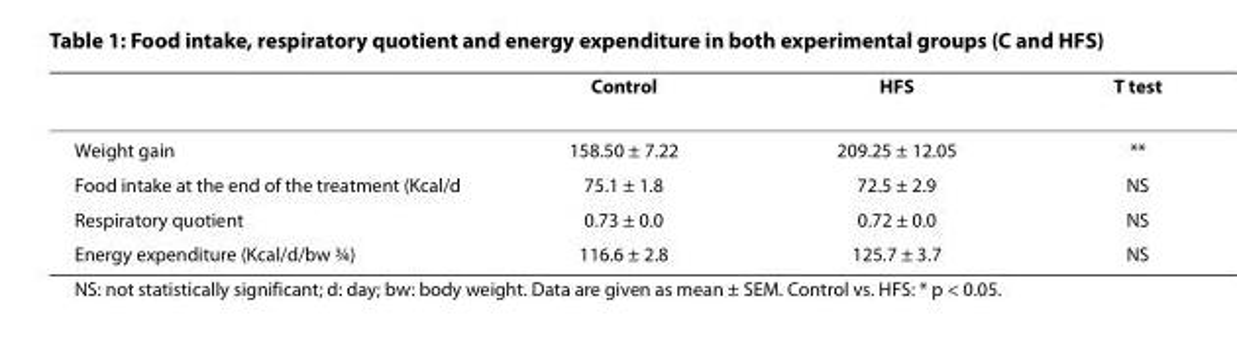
<table><thead><tr><td></td><td>Control</td><td>HFS</td><td>T test</td></tr></thead><tbody><tr><td>Weight gain</td><td>158.50 ± 7.22</td><td>209.25 ± 12.05</td><td>**</td></tr><tr><td>Food intake at the end of the treatment (Kcal/d</td><td>75.1 ± 1.8</td><td>72.5 ± 2.9</td><td>NS</td></tr><tr><td>Respiratory quotient</td><td>0.73 ± 0.0</td><td>0.72 ± 0.0</td><td>NS</td></tr><tr><td>Energy expenditure (Kcal/d/bw ¾)</td><td>116.6 ± 2.8</td><td>125.7 ± 3.7</td><td>NS</td></tr></tbody></table>